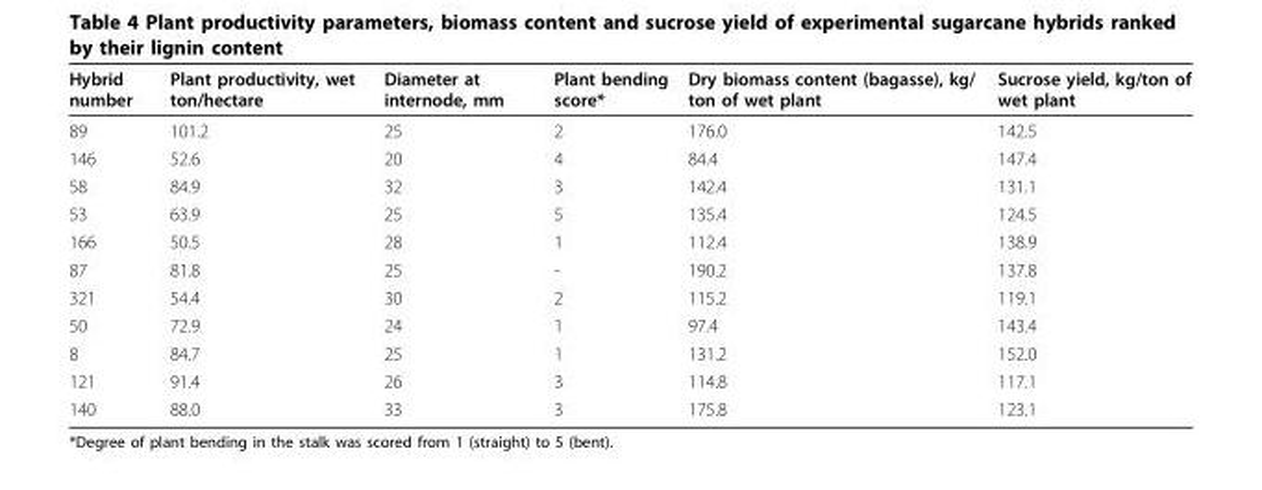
<table><thead><tr><td>Hybrid number</td><td>Plant productivity, wet ton/hectare</td><td>Diameter at internode, mm</td><td>Plant bending score*</td><td>Dry biomass content (bagasse), kg/ ton of wet plant</td><td>Sucrose yield, kg/ton of wet plant</td></tr></thead><tbody><tr><td>89</td><td>101.2</td><td>25</td><td>2</td><td>176.0</td><td>142.5</td></tr><tr><td>146</td><td>52.6</td><td>20</td><td>4</td><td>84.4</td><td>147.4</td></tr><tr><td>58</td><td>84.9</td><td>32</td><td>3</td><td>142.4</td><td>131.1</td></tr><tr><td>53</td><td>63.9</td><td>25</td><td>5</td><td>135.4</td><td>124.5</td></tr><tr><td>166</td><td>50.5</td><td>28</td><td>1</td><td>112.4</td><td>138.9</td></tr><tr><td>87</td><td>81.8</td><td>25</td><td>-</td><td>190.2</td><td>137.8</td></tr><tr><td>321</td><td>54.4</td><td>30</td><td>2</td><td>115.2</td><td>119.1</td></tr><tr><td>50</td><td>72.9</td><td>24</td><td>1</td><td>97.4</td><td>143.4</td></tr><tr><td>8</td><td>84.7</td><td>25</td><td>1</td><td>131.2</td><td>152.0</td></tr><tr><td>121</td><td>91.4</td><td>26</td><td>3</td><td>114.8</td><td>117.1</td></tr><tr><td>140</td><td>88.0</td><td>33</td><td>3</td><td>175.8</td><td>123.1</td></tr></tbody></table>